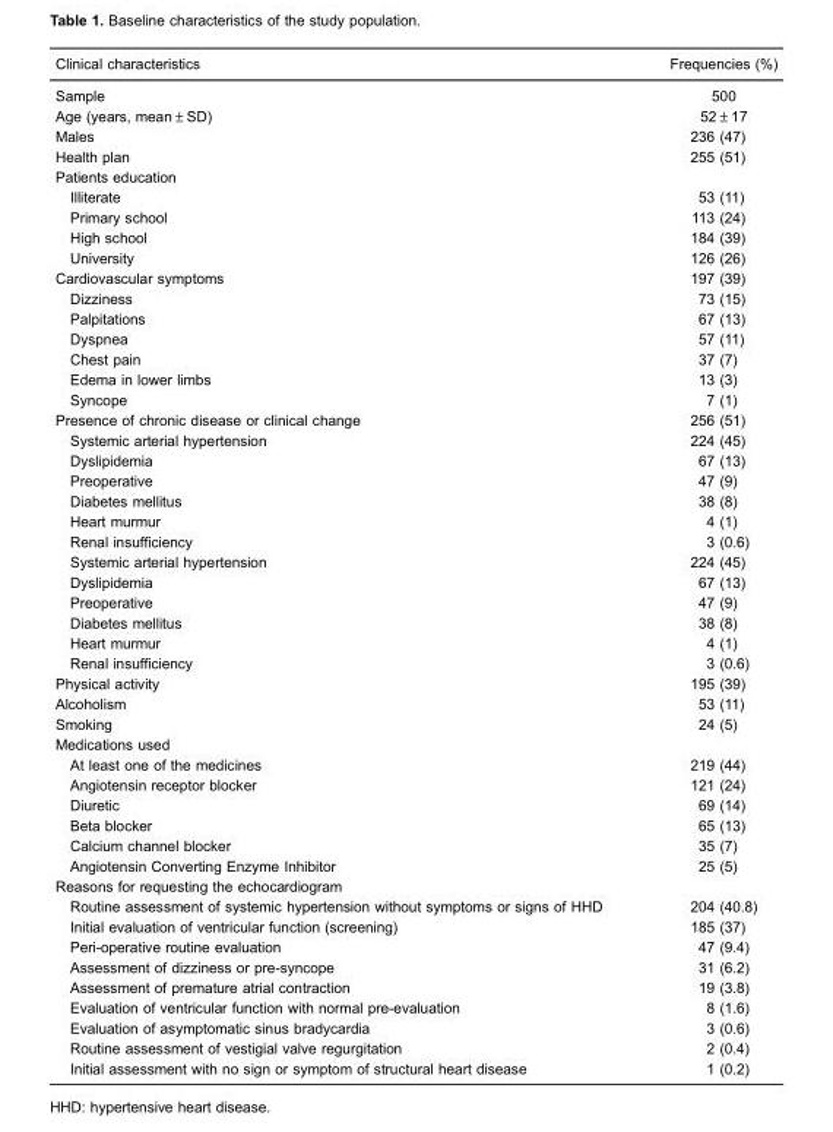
<table><thead><tr><td>Clinical characteristics</td><td>Frequencies (%)</td></tr></thead><tbody><tr><td>Sample</td><td>500</td></tr><tr><td>Age (years, mean±SD)</td><td>52±17</td></tr><tr><td>Males</td><td>236 (47)</td></tr><tr><td>Health plan</td><td>255 (51)</td></tr><tr><td colspan="2">Patients education</td></tr><tr><td>Illiterate</td><td>53 (11)</td></tr><tr><td>Primary school</td><td>113 (24)</td></tr><tr><td>High school</td><td>184 (39)</td></tr><tr><td>University</td><td>126 (26)</td></tr><tr><td>Cardiovascular symptoms</td><td>197 (39)</td></tr><tr><td>Dizziness</td><td>73 (15)</td></tr><tr><td>Palpitations</td><td>67 (13)</td></tr><tr><td>Dyspnea</td><td>57 (11)</td></tr><tr><td>Chest pain</td><td>37 (7)</td></tr><tr><td>Edema in lower limbs</td><td>13 (3)</td></tr><tr><td>Syncope</td><td>7 (1)</td></tr><tr><td>Presence of chronic disease or clinical change</td><td>256 (51)</td></tr><tr><td>Systemic arterial hypertension</td><td>224 (45)</td></tr><tr><td>Dyslipidemia</td><td>67 (13)</td></tr><tr><td>Preoperative</td><td>47 (9)</td></tr><tr><td>Diabetes mellitus</td><td>38 (8)</td></tr><tr><td>Heart murmur</td><td>4 (1)</td></tr><tr><td>Renal insufficiency</td><td>3 (0.6)</td></tr><tr><td>Systemic arterial hypertension</td><td>224 (45)</td></tr><tr><td>Dyslipidemia</td><td>67 (13)</td></tr><tr><td>Preoperative</td><td>47 (9)</td></tr><tr><td>Diabetes mellitus</td><td>38 (8)</td></tr><tr><td>Heart murmur</td><td>4 (1)</td></tr><tr><td>Renal insufficiency</td><td>3 (0.6)</td></tr><tr><td>Physical activity</td><td>195 (39)</td></tr><tr><td>Alcoholism</td><td>53 (11)</td></tr><tr><td>Smoking</td><td>24 (5)</td></tr><tr><td colspan="2">Medications used</td></tr><tr><td>At least one of the medicines</td><td>219 (44)</td></tr><tr><td>Angiotensin receptor blocker</td><td>121 (24)</td></tr><tr><td>Diuretic</td><td>69 (14)</td></tr><tr><td>Beta blocker</td><td>65 (13)</td></tr><tr><td>Calcium channel blocker</td><td>35 (7)</td></tr><tr><td>Angiotensin Converting Enzyme Inhibitor</td><td>25 (5)</td></tr><tr><td colspan="2">Reasons for requesting the echocardiogram</td></tr><tr><td>Routine assessment of systemic hypertension without symptoms or signs of HHD</td><td>204 (40.8)</td></tr><tr><td>Initial evaluation of ventricular function (screening)</td><td>185 (37)</td></tr><tr><td>Peri-operative routine evaluation</td><td>47 (9.4)</td></tr><tr><td>Assessment of dizziness or pre-syncope</td><td>31 (6.2)</td></tr><tr><td>Assessment of premature atrial contraction</td><td>19 (3.8)</td></tr><tr><td>Evaluation of ventricular function with normal pre-evaluation</td><td>8 (1.6)</td></tr><tr><td>Evaluation of asymptomatic sinus bradycardia</td><td>3 (0.6)</td></tr><tr><td>Routine assessment of vestigial valve regurgitation</td><td>2 (0.4)</td></tr><tr><td>Initial assessment with no sign or symptom of structural heart disease</td><td>1 (0.2)</td></tr></tbody></table>